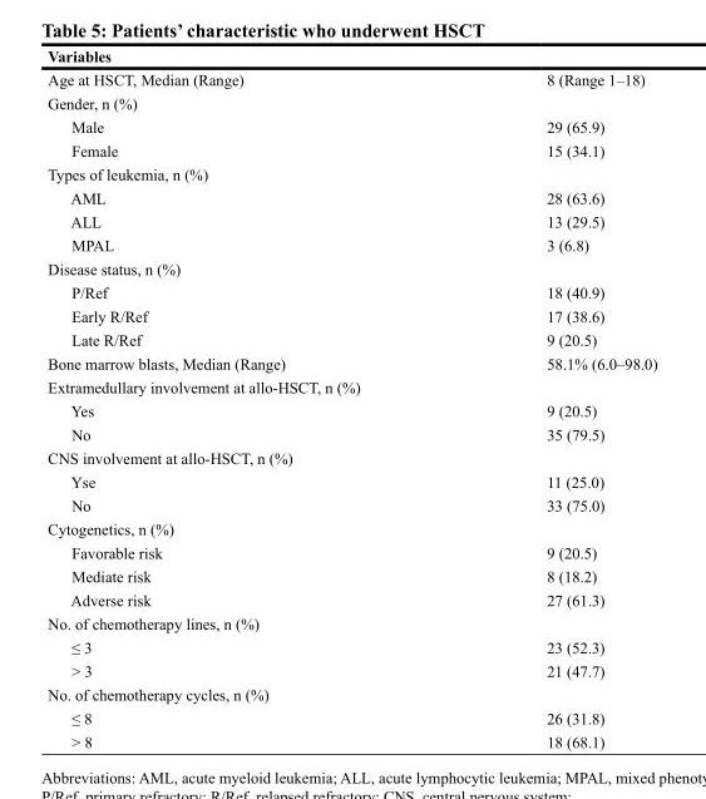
<table><thead><tr><td>Variables</td><td></td></tr></thead><tbody><tr><td>Age at HSCT, Median (Range)</td><td>8 (Range 1–18)</td></tr><tr><td colspan="2">Gender, n (%)</td></tr><tr><td>Male</td><td>29 (65.9)</td></tr><tr><td>Female</td><td>15 (34.1)</td></tr><tr><td colspan="2">Types of leukemia, n (%)</td></tr><tr><td>AML</td><td>28 (63.6)</td></tr><tr><td>ALL</td><td>13 (29.5)</td></tr><tr><td>MPAL</td><td>3 (6.8)</td></tr><tr><td colspan="2">Disease status, n (%)</td></tr><tr><td>P/Ref</td><td>18 (40.9)</td></tr><tr><td>Early R/Ref</td><td>17 (38.6)</td></tr><tr><td>Late R/Ref</td><td>9 (20.5)</td></tr><tr><td>Bone marrow blasts, Median (Range)</td><td>58.1% (6.0–98.0)</td></tr><tr><td colspan="2">Extramedullary involvement at allo-HSCT, n (%)</td></tr><tr><td>Yes</td><td>9 (20.5)</td></tr><tr><td>No</td><td>35 (79.5)</td></tr><tr><td colspan="2">CNS involvement at allo-HSCT, n (%)</td></tr><tr><td>Yse</td><td>11 (25.0)</td></tr><tr><td>No</td><td>33 (75.0)</td></tr><tr><td colspan="2">Cytogenetics, n (%)</td></tr><tr><td>Favorable risk</td><td>9 (20.5)</td></tr><tr><td>Mediate risk</td><td>8 (18.2)</td></tr><tr><td>Adverse risk</td><td>27 (61.3)</td></tr><tr><td colspan="2">No. of chemotherapy lines, n (%)</td></tr><tr><td>≤ 3</td><td>23 (52.3)</td></tr><tr><td>&gt; 3</td><td>21 (47.7)</td></tr><tr><td colspan="2">No. of chemotherapy cycles, n (%)</td></tr><tr><td>≤ 8</td><td>26 (31.8)</td></tr><tr><td>&gt; 8</td><td>18 (68.1)</td></tr></tbody></table>